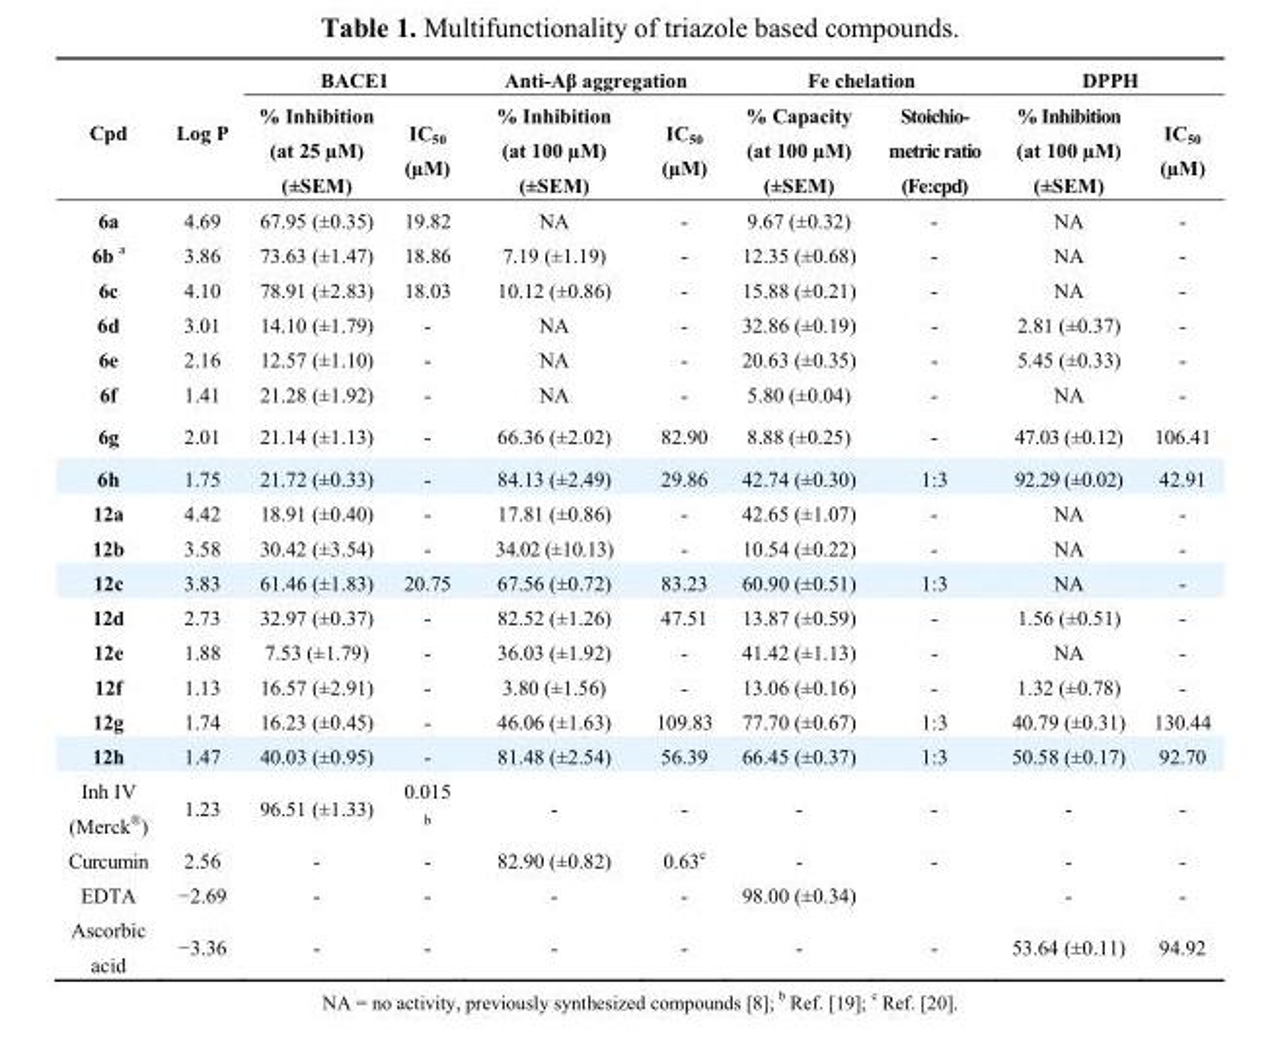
<table><thead><tr><td rowspan="2">Cpd</td><td rowspan="2">Log P</td><td colspan="2">BACE1</td><td colspan="2">Anti-Aβ aggregation</td><td colspan="2">Fe chelation</td><td colspan="2">DPPH</td></tr><tr><td>% Inhibition (at 25 µM) (±SEM)</td><td>IC<sub>50</sub> (µM)</td><td>% Inhibition (at 100 µM) (±SEM)</td><td>IC<sub>50</sub> (µM)</td><td>% Capacity (at 100 µM) (±SEM)</td><td>Stoichio- metric ratio (Fe:cpd)</td><td>% Inhibition (at 100 µM) (±SEM)</td><td>IC<sub>50</sub> (µM)</td></tr></thead><tbody><tr><td>6a</td><td>4.69</td><td>67.95 (±0.35)</td><td>19.82</td><td>NA</td><td>-</td><td>9.67 (±0.32)</td><td>-</td><td>NA</td><td>-</td></tr><tr><td>6b <sup>a</sup></td><td>3.86</td><td>73.63 (±1.47)</td><td>18.86</td><td>7.19 (±1.19)</td><td>-</td><td>12.35 (±0.68)</td><td>-</td><td>NA</td><td>-</td></tr><tr><td>6c</td><td>4.10</td><td>78.91 (±2.83)</td><td>18.03</td><td>10.12 (±0.86)</td><td>-</td><td>15.88 (±0.21)</td><td>-</td><td>NA</td><td>-</td></tr><tr><td>6d</td><td>3.01</td><td>14.10 (±1.79)</td><td>-</td><td>NA</td><td>-</td><td>32.86 (±0.19)</td><td>-</td><td>2.81 (±0.37)</td><td>-</td></tr><tr><td>6e</td><td>2.16</td><td>12.57 (±1.10)</td><td>-</td><td>NA</td><td>-</td><td>20.63 (±0.35)</td><td>-</td><td>5.45 (±0.33)</td><td>-</td></tr><tr><td>6f</td><td>1.41</td><td>21.28 (±1.92)</td><td>-</td><td>NA</td><td>-</td><td>5.80 (±0.04)</td><td>-</td><td>NA</td><td>-</td></tr><tr><td>6g</td><td>2.01</td><td>21.14 (±1.13)</td><td>-</td><td>66.36 (±2.02)</td><td>82.90</td><td>8.88 (±0.25)</td><td>-</td><td>47.03 (±0.12)</td><td>106.41</td></tr><tr><td>6h</td><td>1.75</td><td>21.72 (±0.33)</td><td>-</td><td>84.13 (±2.49)</td><td>29.86</td><td>42.74 (±0.30)</td><td>1:3</td><td>92.29 (±0.02)</td><td>42.91</td></tr><tr><td>12a</td><td>4.42</td><td>18.91 (±0.40)</td><td>-</td><td>17.81 (±0.86)</td><td>-</td><td>42.65 (±1.07)</td><td>-</td><td>NA</td><td>-</td></tr><tr><td>12b</td><td>3.58</td><td>30.42 (±3.54)</td><td>-</td><td>34.02 (±10.13)</td><td>-</td><td>10.54 (±0.22)</td><td>-</td><td>NA</td><td>-</td></tr><tr><td>12c</td><td>3.83</td><td>61.46 (±1.83)</td><td>20.75</td><td>67.56 (±0.72)</td><td>83.23</td><td>60.90 (±0.51)</td><td>1:3</td><td>NA</td><td>-</td></tr><tr><td>12d</td><td>2.73</td><td>32.97 (±0.37)</td><td>-</td><td>82.52 (±1.26)</td><td>47.51</td><td>13.87 (±0.59)</td><td>-</td><td>1.56 (±0.51)</td><td>-</td></tr><tr><td>12e</td><td>1.88</td><td>7.53 (±1.79)</td><td>-</td><td>36.03 (±1.92)</td><td>-</td><td>41.42 (±1.13)</td><td>-</td><td>NA</td><td>-</td></tr><tr><td>12f</td><td>1.13</td><td>16.57 (±2.91)</td><td>-</td><td>3.80 (±1.56)</td><td>-</td><td>13.06 (±0.16)</td><td>-</td><td>1.32 (±0.78)</td><td>-</td></tr><tr><td>12g</td><td>1.74</td><td>16.23 (±0.45)</td><td>-</td><td>46.06 (±1.63)</td><td>109.83</td><td>77.70 (±0.67)</td><td>1:3</td><td>40.79 (±0.31)</td><td>130.44</td></tr><tr><td>12h</td><td>1.47</td><td>40.03 (±0.95)</td><td>-</td><td>81.48 (±2.54)</td><td>56.39</td><td>66.45 (±0.37)</td><td>1:3</td><td>50.58 (±0.17)</td><td>92.70</td></tr><tr><td>Inh IV (Merck<sup>®</sup>)</td><td>1.23</td><td>96.51 (±1.33)</td><td>0.015 <sup>b</sup></td><td>-</td><td>-</td><td>-</td><td>-</td><td>-</td><td>-</td></tr><tr><td>Curcumin</td><td>2.56</td><td>-</td><td>-</td><td>82.90 (±0.82)</td><td>0.63<sup>c</sup></td><td>-</td><td>-</td><td>-</td><td>-</td></tr><tr><td>EDTA</td><td>−2.69</td><td>-</td><td>-</td><td>-</td><td>-</td><td>98.00 (±0.34)</td><td></td><td>-</td><td>-</td></tr><tr><td>Ascorbic acid</td><td>−3.36</td><td>-</td><td>-</td><td>-</td><td>-</td><td>-</td><td>-</td><td>53.64 (±0.11)</td><td>94.92</td></tr></tbody></table>